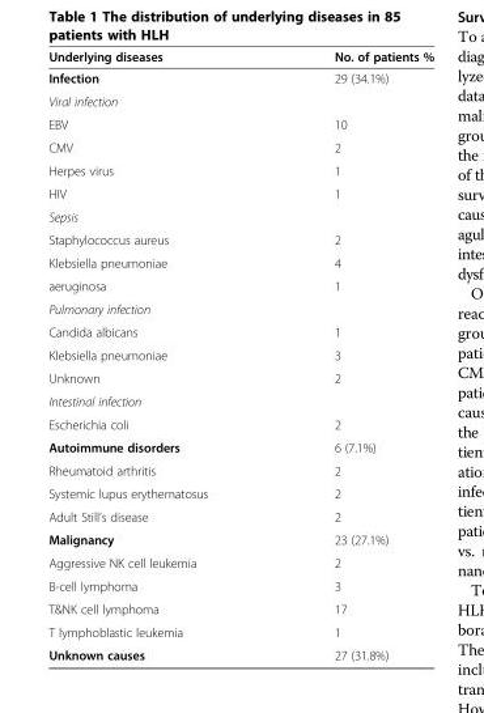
<table><thead><tr><td>Underlying diseases</td><td>No. of patients %</td></tr></thead><tbody><tr><td>Infection</td><td>29 (34.1%)</td></tr><tr><td colspan="2">Viral infection</td></tr><tr><td>EBV</td><td>10</td></tr><tr><td>CMV</td><td>2</td></tr><tr><td>Herpes virus</td><td>1</td></tr><tr><td>HIV</td><td>1</td></tr><tr><td colspan="2">Sepsis</td></tr><tr><td>Staphylococcus aureus</td><td>2</td></tr><tr><td>Klebsiella pneumoniae</td><td>4</td></tr><tr><td>aeruginosa</td><td>1</td></tr><tr><td colspan="2">Pulmonary infection</td></tr><tr><td>Candida albicans</td><td>1</td></tr><tr><td>Klebsiella pneumoniae</td><td>3</td></tr><tr><td>Unknown</td><td>2</td></tr><tr><td colspan="2">Intestinal infection</td></tr><tr><td>Escherichia coli</td><td>2</td></tr><tr><td>Autoimmune disorders</td><td>6 (7.1%)</td></tr><tr><td>Rheumatoid arthritis</td><td>2</td></tr><tr><td>Systemic lupus erythematosus</td><td>2</td></tr><tr><td>Adult Still’s disease</td><td>2</td></tr><tr><td>Malignancy</td><td>23 (27.1%)</td></tr><tr><td>Aggressive NK cell leukemia</td><td>2</td></tr><tr><td>B-cell lymphoma</td><td>3</td></tr><tr><td>T&amp;NK cell lymphoma</td><td>17</td></tr><tr><td>T lymphoblastic leukemia</td><td>1</td></tr><tr><td>Unknown causes</td><td>27 (31.8%)</td></tr></tbody></table>